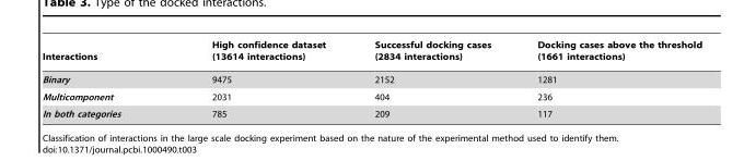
<table><thead><tr><td>Interactions</td><td>High confidence dataset (13614 interactions)</td><td>Successful docking cases (2834 interactions)</td><td>Docking cases above the threshold (1661 interactions)</td></tr></thead><tbody><tr><td>Binary</td><td>9475</td><td>2152</td><td>1281</td></tr><tr><td>Multicomponent</td><td>2031</td><td>404</td><td>236</td></tr><tr><td>In both categories</td><td>785</td><td>209</td><td>117</td></tr></tbody></table>